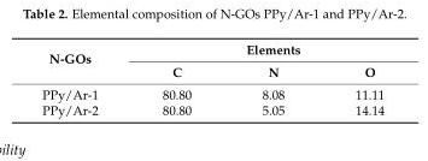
<table><thead><tr><td rowspan="2">N-GOs</td><td colspan="3">Elements</td></tr><tr><td>C</td><td>N</td><td>O</td></tr></thead><tbody><tr><td>PPy/Ar-1</td><td>80.80</td><td>8.08</td><td>11.11</td></tr><tr><td>PPy/Ar-2</td><td>80.80</td><td>5.05</td><td>14.14</td></tr></tbody></table>